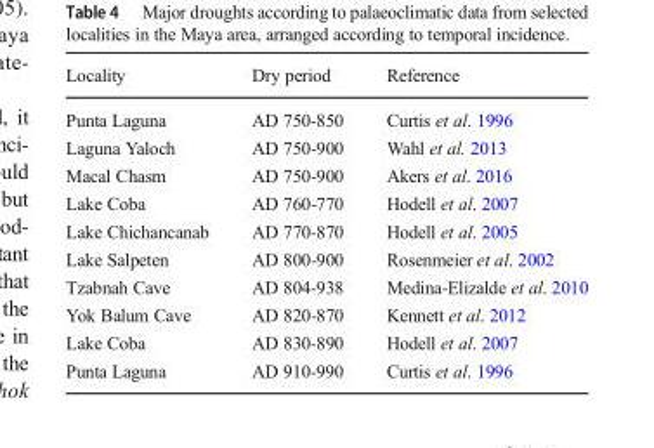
<table><thead><tr><td>Locality</td><td>Dry period</td><td>Reference</td></tr></thead><tbody><tr><td>Punta Laguna</td><td>AD 750-850</td><td>Curtis et al. 1996</td></tr><tr><td>Laguna Yaloch</td><td>AD 750-900</td><td>Wahl et al. 2013</td></tr><tr><td>Macal Chasm</td><td>AD 750-900</td><td>Akers et al. 2016</td></tr><tr><td>Lake Coba</td><td>AD 760-770</td><td>Hodell et al. 2007</td></tr><tr><td>Lake Chichancanab</td><td>AD 770-870</td><td>Hodell et al. 2005</td></tr><tr><td>Lake Salpeten</td><td>AD 800-900</td><td>Rosenmeier et al. 2002</td></tr><tr><td>Tzabnah Cave</td><td>AD 804-938</td><td>Medina-Elizalde et al. 2010</td></tr><tr><td>Yok Balum Cave</td><td>AD 820-870</td><td>Kennett et al. 2012</td></tr><tr><td>Lake Coba</td><td>AD 830-890</td><td>Hodell et al. 2007</td></tr><tr><td>Punta Laguna</td><td>AD 910-990</td><td>Curtis et al. 1996</td></tr></tbody></table>